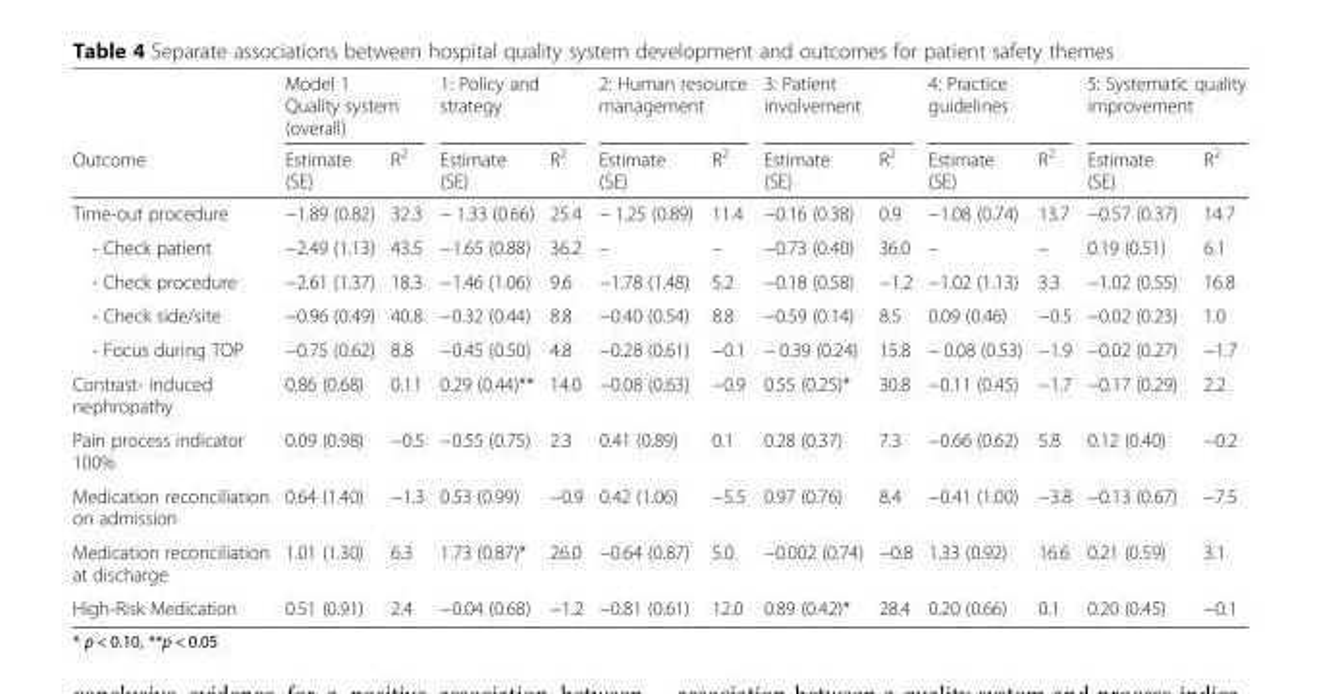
<table><thead><tr><td rowspan="2">Outcome</td><td colspan="2">Model 1 Quality system (overall)</td><td colspan="2">1: Policy and strategy</td><td colspan="2">2: Human resource management</td><td colspan="2">3: Patient involvement</td><td colspan="2">4: Practice guidelines</td><td colspan="2">5: Systematic quality improvement</td></tr><tr><td>Estimate (SE)</td><td>R<sup>2</sup></td><td>Estimate (SE)</td><td>R<sup>2</sup></td><td>Estimate (SE)</td><td>R<sup>2</sup></td><td>Estimate (SE)</td><td>R<sup>2</sup></td><td>Estimate (SE)</td><td>R<sup>2</sup></td><td>Estimate (SE)</td><td>R<sup>2</sup></td></tr></thead><tbody><tr><td>Time-out procedure</td><td>−1.89 (0.82)</td><td>32.3</td><td>− 1.33 (0.66)</td><td>25.4</td><td>− 1.25 (0.89)</td><td>11.4</td><td>−0.16 (0.38)</td><td>0.9</td><td>−1.08 (0.74)</td><td>13.7</td><td>−0.57 (0.37)</td><td>14.7</td></tr><tr><td>- Check patient</td><td>−2.49 (1.13)</td><td>43.5</td><td>−1.65 (0.88)</td><td>36.2</td><td>–</td><td>–</td><td>−0.73 (0.40)</td><td>36.0</td><td>–</td><td>–</td><td>0.19 (0.51)</td><td>6.1</td></tr><tr><td>- Check procedure</td><td>−2.61 (1.37)</td><td>18.3</td><td>−1.46 (1.06)</td><td>9.6</td><td>−1.78 (1.48)</td><td>5.2</td><td>−0.18 (0.58)</td><td>−1.2</td><td>−1.02 (1.13)</td><td>3.3</td><td>−1.02 (0.55)</td><td>16.8</td></tr><tr><td>- Check side/site</td><td>−0.96 (0.49)</td><td>40.8</td><td>−0.32 (0.44)</td><td>8.8</td><td>−0.40 (0.54)</td><td>8.8</td><td>−0.59 (0.14)</td><td>8.5</td><td>0.09 (0.46)</td><td>−0.5</td><td>−0.02 (0.23)</td><td>1.0</td></tr><tr><td>- Focus during TOP</td><td>−0.75 (0.62)</td><td>8.8</td><td>−0.45 (0.50)</td><td>4.8</td><td>−0.28 (0.61)</td><td>−0.1</td><td>− 0.39 (0.24)</td><td>15.8</td><td>− 0.08 (0.53)</td><td>−1.9</td><td>−0.02 (0.27)</td><td>−1.7</td></tr><tr><td>Contrast- induced nephropathy</td><td>0.86 (0.68)</td><td>0.11</td><td>0.29 (0.44)**</td><td>14.0</td><td>−0.08 (0.63)</td><td>−0.9</td><td>0.55 (0.25)*</td><td>30.8</td><td>−0.11 (0.45)</td><td>−1.7</td><td>−0.17 (0.29)</td><td>2.2</td></tr><tr><td>Pain process indicator 100%</td><td>0.09 (0.98)</td><td>−0.5</td><td>−0.55 (0.75)</td><td>2.3</td><td>0.41 (0.89)</td><td>0.1</td><td>0.28 (0.37)</td><td>7.3</td><td>−0.66 (0.62)</td><td>5.8</td><td>0.12 (0.40)</td><td>−0.2</td></tr><tr><td>Medication reconciliation on admission</td><td>0.64 (1.40)</td><td>−1.3</td><td>0.53 (0.99)</td><td>−0.9</td><td>0.42 (1.06)</td><td>−5.5</td><td>0.97 (0.76)</td><td>8.4</td><td>−0.41 (1.00)</td><td>−3.8</td><td>−0.13 (0.67)</td><td>−7.5</td></tr><tr><td>Medication reconciliation at discharge</td><td>1.01 (1.30)</td><td>6.3</td><td>1.73 (0.87)*</td><td>26.0</td><td>−0.64 (0.87)</td><td>5.0</td><td>−0.002 (0.74)</td><td>−0.8</td><td>1.33 (0.92)</td><td>16.6</td><td>0.21 (0.59)</td><td>3.1</td></tr><tr><td>High-Risk Medication</td><td>0.51 (0.91)</td><td>2.4</td><td>−0.04 (0.68)</td><td>−1.2</td><td>−0.81 (0.61)</td><td>12.0</td><td>0.89 (0.42)*</td><td>28.4</td><td>0.20 (0.66)</td><td>0.1</td><td>0.20 (0.45)</td><td>−0.1</td></tr></tbody></table>